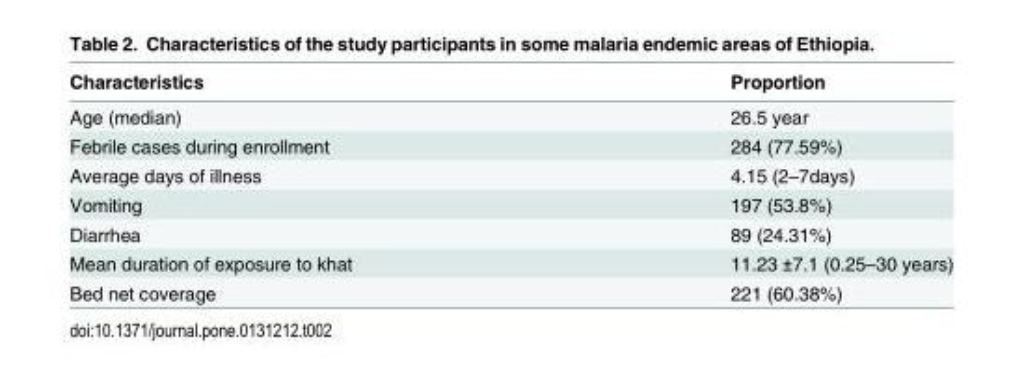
<table><thead><tr><td>Characteristics</td><td>Proportion</td></tr></thead><tbody><tr><td>Age (median)</td><td>26.5 year</td></tr><tr><td>Febrile cases during enrollment</td><td>284 (77.59%)</td></tr><tr><td>Average days of illness</td><td>4.15 (2–7days)</td></tr><tr><td>Vomiting</td><td>197 (53.8%)</td></tr><tr><td>Diarrhea</td><td>89 (24.31%)</td></tr><tr><td>Mean duration of exposure to khat</td><td>11.23 ±7.1 (0.25–30 years)</td></tr><tr><td>Bed net coverage</td><td>221 (60.38%)</td></tr></tbody></table>